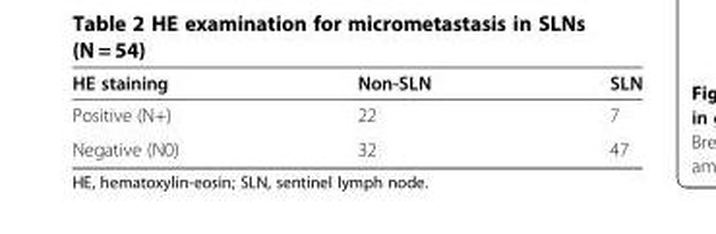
<table><thead><tr><td>HE staining</td><td>Non-SLN</td><td>SLN</td></tr></thead><tbody><tr><td>Positive (N+)</td><td>22</td><td>7</td></tr><tr><td>Negative (N0)</td><td>32</td><td>47</td></tr></tbody></table>